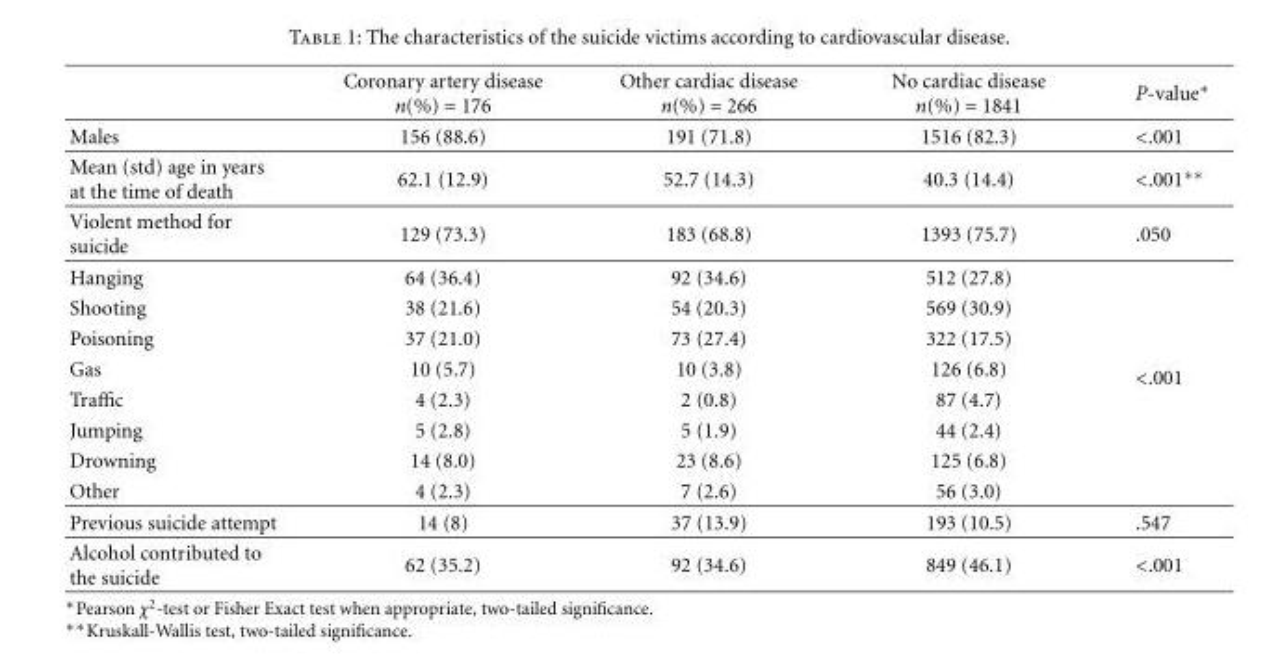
<table><thead><tr><td></td><td>Coronary artery disease n(%) = 176</td><td>Other cardiac disease n(%) = 266</td><td>No cardiac disease n(%) = 1841</td><td>P-value∗</td></tr></thead><tbody><tr><td>Males</td><td>156 (88.6)</td><td>191 (71.8)</td><td>1516 (82.3)</td><td>&lt;.001</td></tr><tr><td>Mean (std) age in years at the time of death</td><td>62.1 (12.9)</td><td>52.7 (14.3)</td><td>40.3 (14.4)</td><td>&lt;.001∗∗</td></tr><tr><td>Violent method for suicide</td><td>129 (73.3)</td><td>183 (68.8)</td><td>1393 (75.7)</td><td>.050</td></tr><tr><td>Hanging</td><td>64 (36.4)</td><td>92 (34.6)</td><td>512 (27.8)</td><td rowspan="8">&lt;.001</td></tr><tr><td>Shooting</td><td>38 (21.6)</td><td>54 (20.3)</td><td>569 (30.9)</td></tr><tr><td>Poisoning</td><td>37 (21.0)</td><td>73 (27.4)</td><td>322 (17.5)</td></tr><tr><td>Gas</td><td>10 (5.7)</td><td>10 (3.8)</td><td>126 (6.8)</td></tr><tr><td>Traffic</td><td>4 (2.3)</td><td>2 (0.8)</td><td>87 (4.7)</td></tr><tr><td>Jumping</td><td>5 (2.8)</td><td>5 (1.9)</td><td>44 (2.4)</td></tr><tr><td>Drowning</td><td>14 (8.0)</td><td>23 (8.6)</td><td>125 (6.8)</td></tr><tr><td>Other</td><td>4 (2.3)</td><td>7 (2.6)</td><td>56 (3.0)</td></tr><tr><td>Previous suicide attempt</td><td>14 (8)</td><td>37 (13.9)</td><td>193 (10.5)</td><td>.547</td></tr><tr><td>Alcohol contributed to the suicide</td><td>62 (35.2)</td><td>92 (34.6)</td><td>849 (46.1)</td><td>&lt;.001</td></tr></tbody></table>